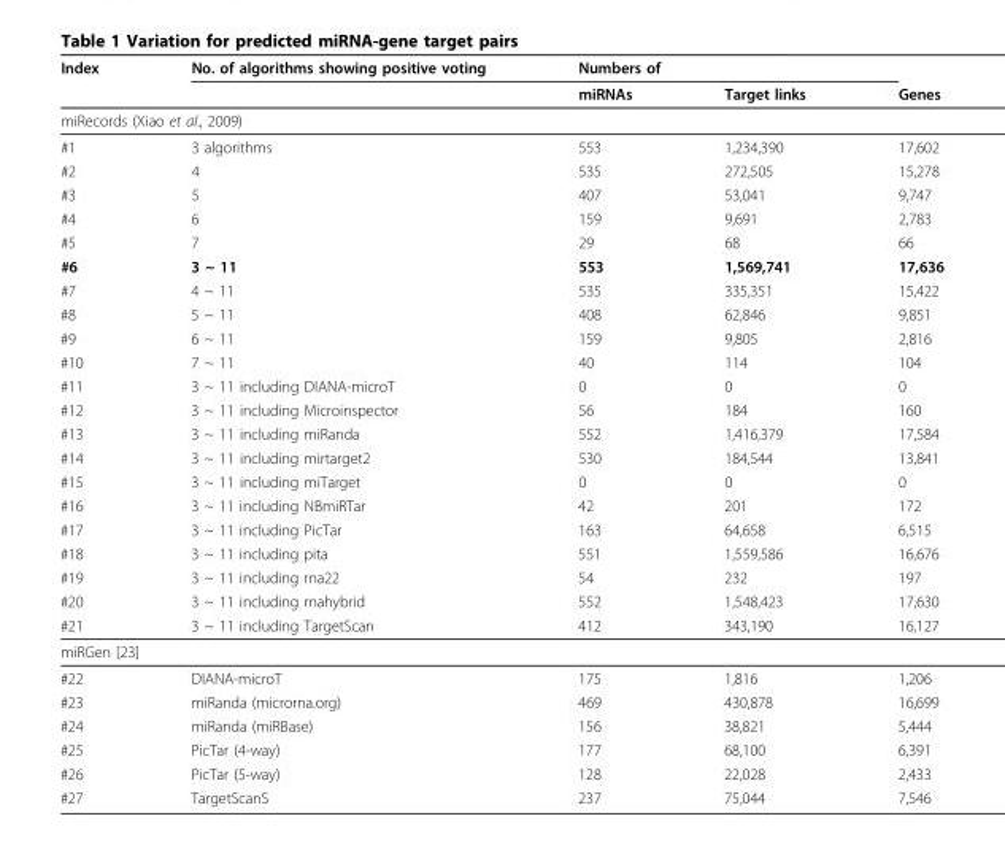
<table><thead><tr><td rowspan="2">Index</td><td rowspan="2">No. of algorithms showing positive voting</td><td colspan="3">Numbers of</td></tr><tr><td>miRNAs</td><td>Target links</td><td>Genes</td></tr></thead><tbody><tr><td colspan="5">miRecords (Xiao et al., 2009)</td></tr><tr><td>#1</td><td>3 algorithms</td><td>553</td><td>1,234,390</td><td>17,602</td></tr><tr><td>#2</td><td>4</td><td>535</td><td>272,505</td><td>15,278</td></tr><tr><td>#3</td><td>5</td><td>407</td><td>53,041</td><td>9,747</td></tr><tr><td>#4</td><td>6</td><td>159</td><td>9,691</td><td>2,783</td></tr><tr><td>#5</td><td>7</td><td>29</td><td>68</td><td>66</td></tr><tr><td>#6</td><td>3 ~ 11</td><td>553</td><td>1,569,741</td><td>17,636</td></tr><tr><td>#7</td><td>4 ~ 11</td><td>535</td><td>335,351</td><td>15,422</td></tr><tr><td>#8</td><td>5 ~ 11</td><td>408</td><td>62,846</td><td>9,851</td></tr><tr><td>#9</td><td>6 ~ 11</td><td>159</td><td>9,805</td><td>2,816</td></tr><tr><td>#10</td><td>7 ~ 11</td><td>40</td><td>114</td><td>104</td></tr><tr><td>#11</td><td>3 ~ 11 including DIANA-microT</td><td>0</td><td>0</td><td>0</td></tr><tr><td>#12</td><td>3 ~ 11 including Microinspector</td><td>56</td><td>184</td><td>160</td></tr><tr><td>#13</td><td>3 ~ 11 including miRanda</td><td>552</td><td>1,416,379</td><td>17,584</td></tr><tr><td>#14</td><td>3 ~ 11 including mirtarget2</td><td>530</td><td>184,544</td><td>13,841</td></tr><tr><td>#15</td><td>3 ~ 11 including miTarget</td><td>0</td><td>0</td><td>0</td></tr><tr><td>#16</td><td>3 ~ 11 including NBmiRTar</td><td>42</td><td>201</td><td>172</td></tr><tr><td>#17</td><td>3 ~ 11 including PicTar</td><td>163</td><td>64,658</td><td>6,515</td></tr><tr><td>#18</td><td>3 ~ 11 including pita</td><td>551</td><td>1,559,586</td><td>16,676</td></tr><tr><td>#19</td><td>3 ~ 11 including rna22</td><td>54</td><td>232</td><td>197</td></tr><tr><td>#20</td><td>3 ~ 11 including rnahybrid</td><td>552</td><td>1,548,423</td><td>17,630</td></tr><tr><td>#21</td><td>3 ~ 11 including TargetScan</td><td>412</td><td>343,190</td><td>16,127</td></tr><tr><td colspan="5">miRGen [23]</td></tr><tr><td>#22</td><td>DIANA-microT</td><td>175</td><td>1,816</td><td>1,206</td></tr><tr><td>#23</td><td>miRanda (microrna.org)</td><td>469</td><td>430,878</td><td>16,699</td></tr><tr><td>#24</td><td>miRanda (miRBase)</td><td>156</td><td>38,821</td><td>5,444</td></tr><tr><td>#25</td><td>PicTar (4-way)</td><td>177</td><td>68,100</td><td>6,391</td></tr><tr><td>#26</td><td>PicTar (5-way)</td><td>128</td><td>22,028</td><td>2,433</td></tr><tr><td>#27</td><td>TargetScanS</td><td>237</td><td>75,044</td><td>7,546</td></tr></tbody></table>